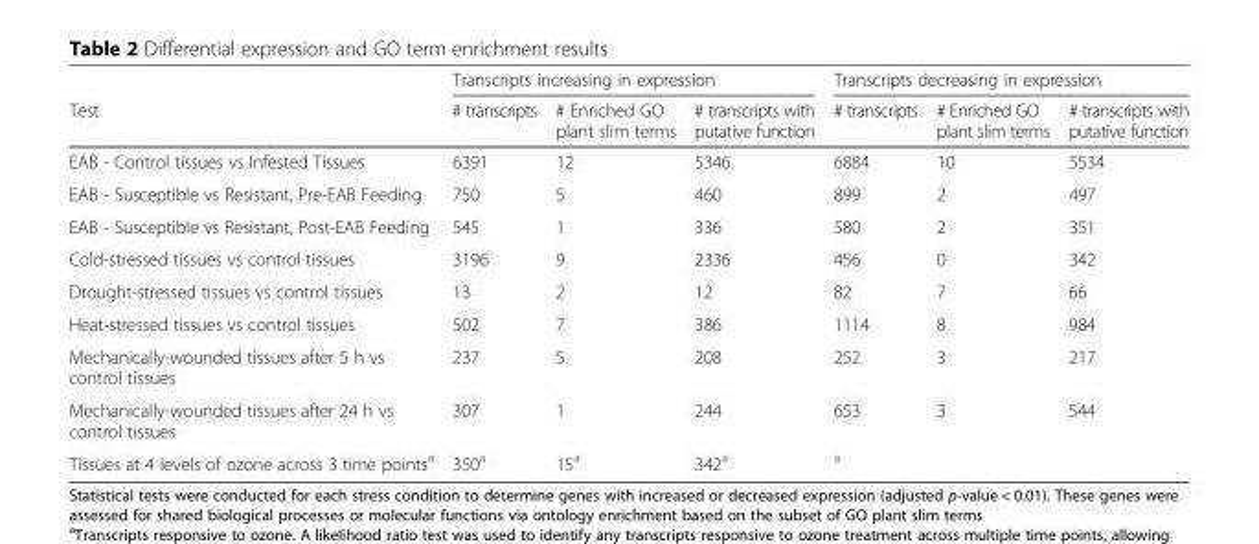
<table><thead><tr><td rowspan="2">Test</td><td colspan="3">Transcripts increasing in expression</td><td colspan="3">Transcripts decreasing in expression</td></tr><tr><td># transcripts</td><td># Enriched GO plant slim terms</td><td># transcripts with putative function</td><td># transcripts</td><td># Enriched GO plant slim terms</td><td># transcripts with putative function</td></tr></thead><tbody><tr><td>EAB - Control tissues vs Infested Tissues</td><td>6391</td><td>12</td><td>5346</td><td>6884</td><td>10</td><td>5534</td></tr><tr><td>EAB - Susceptible vs Resistant, Pre-EAB Feeding</td><td>750</td><td>5</td><td>460</td><td>899</td><td>2</td><td>497</td></tr><tr><td>EAB - Susceptible vs Resistant, Post-EAB Feeding</td><td>545</td><td>1</td><td>336</td><td>580</td><td>2</td><td>351</td></tr><tr><td>Cold-stressed tissues vs control tissues</td><td>3196</td><td>9</td><td>2336</td><td>456</td><td>0</td><td>342</td></tr><tr><td>Drought-stressed tissues vs control tissues</td><td>13</td><td>2</td><td>12</td><td>82</td><td>7</td><td>66</td></tr><tr><td>Heat-stressed tissues vs control tissues</td><td>502</td><td>7</td><td>386</td><td>1114</td><td>8</td><td>984</td></tr><tr><td>Mechanically-wounded tissues after 5 h vs control tissues</td><td>237</td><td>5</td><td>208</td><td>252</td><td>3</td><td>217</td></tr><tr><td>Mechanically-wounded tissues after 24 h vs control tissues</td><td>307</td><td>1</td><td>244</td><td>653</td><td>3</td><td>544</td></tr><tr><td>Tissues at 4 levels of ozone across 3 time points<sup>a</sup></td><td>350<sup>a</sup></td><td>15<sup>a</sup></td><td>342<sup>a</sup></td><td colspan="3"><sup>a</sup></td></tr></tbody></table>